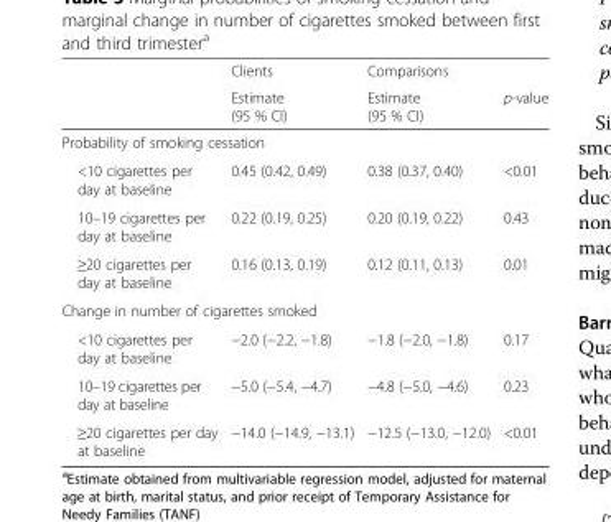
<table><thead><tr><td rowspan="2"></td><td rowspan="2">Clients Estimate (95 % CI)</td><td rowspan="2">Comparisons Estimate (95 % CI)</td><td rowspan="2">p-value</td></tr><tr></tr></thead><tbody><tr><td colspan="4">Probability of smoking cessation</td></tr><tr><td>&lt;10 cigarettes per day at baseline</td><td>0.45 (0.42, 0.49)</td><td>0.38 (0.37, 0.40)</td><td>&lt;0.01</td></tr><tr><td>10–19 cigarettes per day at baseline</td><td>0.22 (0.19, 0.25)</td><td>0.20 (0.19, 0.22)</td><td>0.43</td></tr><tr><td>≥20 cigarettes per day at baseline</td><td>0.16 (0.13, 0.19)</td><td>0.12 (0.11, 0.13)</td><td>0.01</td></tr><tr><td colspan="4">Change in number of cigarettes smoked</td></tr><tr><td>&lt;10 cigarettes per day at baseline</td><td>−2.0 (−2.2, −1.8)</td><td>−1.8 (−2.0, −1.8)</td><td>0.17</td></tr><tr><td>10–19 cigarettes per day at baseline</td><td>−5.0 (−5.4, −4.7)</td><td>−4.8 (−5.0, −4.6)</td><td>0.23</td></tr><tr><td>≥20 cigarettes per day at baseline</td><td>−14.0 (−14.9, −13.1)</td><td>−12.5 (−13.0, −12.0)</td><td>&lt;0.01</td></tr></tbody></table>